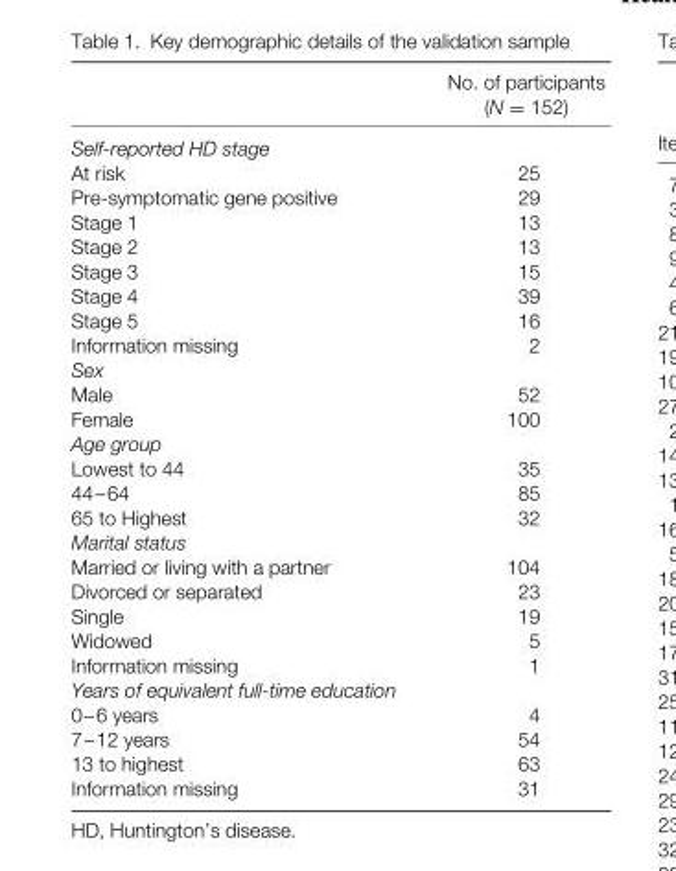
<table><thead><tr><td></td><td>No. of participants (N = 152)</td></tr></thead><tbody><tr><td colspan="2">Self-reported HD stage</td></tr><tr><td>At risk</td><td>25</td></tr><tr><td>Pre-symptomatic gene positive</td><td>29</td></tr><tr><td>Stage 1</td><td>13</td></tr><tr><td>Stage 2</td><td>13</td></tr><tr><td>Stage 3</td><td>15</td></tr><tr><td>Stage 4</td><td>39</td></tr><tr><td>Stage 5</td><td>16</td></tr><tr><td>Information missing</td><td>2</td></tr><tr><td colspan="2">Sex</td></tr><tr><td>Male</td><td>52</td></tr><tr><td>Female</td><td>100</td></tr><tr><td colspan="2">Age group</td></tr><tr><td>Lowest to 44</td><td>35</td></tr><tr><td>44–64</td><td>85</td></tr><tr><td>65 to Highest</td><td>32</td></tr><tr><td colspan="2">Marital status</td></tr><tr><td>Married or living with a partner</td><td>104</td></tr><tr><td>Divorced or separated</td><td>23</td></tr><tr><td>Single</td><td>19</td></tr><tr><td>Widowed</td><td>5</td></tr><tr><td>Information missing</td><td>1</td></tr><tr><td colspan="2">Years of equivalent full-time education</td></tr><tr><td>0–6 years</td><td>4</td></tr><tr><td>7–12 years</td><td>54</td></tr><tr><td>13 to highest</td><td>63</td></tr><tr><td>Information missing</td><td>31</td></tr></tbody></table>